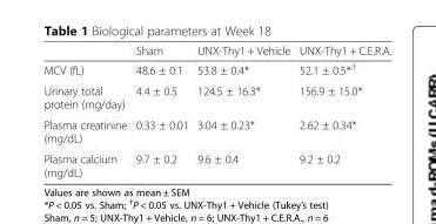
<table><thead><tr><td></td><td>Sham</td><td>UNX-Thy1 + Vehicle</td><td>UNX-Thy1 + C.E.R.A.</td></tr></thead><tbody><tr><td>MCV (fL)</td><td>48.6 ± 0.1</td><td>53.8 ± 0.4*</td><td>52.1 ± 0.5*<sup>,†</sup></td></tr><tr><td>Urinary total protein (mg/day)</td><td>4.4 ± 0.5</td><td>124.5 ± 16.3*</td><td>156.9 ± 15.0*</td></tr><tr><td>Plasma creatinine (mg/dL)</td><td>0.33 ± 0.01</td><td>3.04 ± 0.23*</td><td>2.62 ± 0.34*</td></tr><tr><td>Plasma calcium (mg/dL)</td><td>9.7 ± 0.2</td><td>9.6 ± 0.4</td><td>9.2 ± 0.2</td></tr></tbody></table>